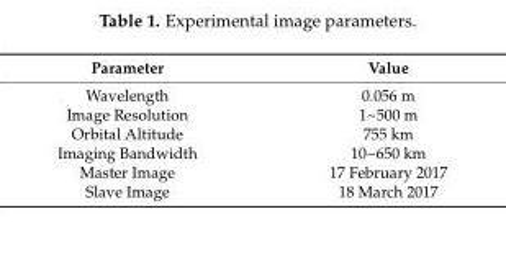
<table><thead><tr><td>Parameter</td><td>Value</td></tr></thead><tbody><tr><td>Wavelength</td><td>0.056 m</td></tr><tr><td>Image Resolution</td><td>1~500 m</td></tr><tr><td>Orbital Altitude</td><td>755 km</td></tr><tr><td>Imaging Bandwidth</td><td>10~650 km</td></tr><tr><td>Master Image</td><td>17 February 2017</td></tr><tr><td>Slave Image</td><td>18 March 2017</td></tr></tbody></table>